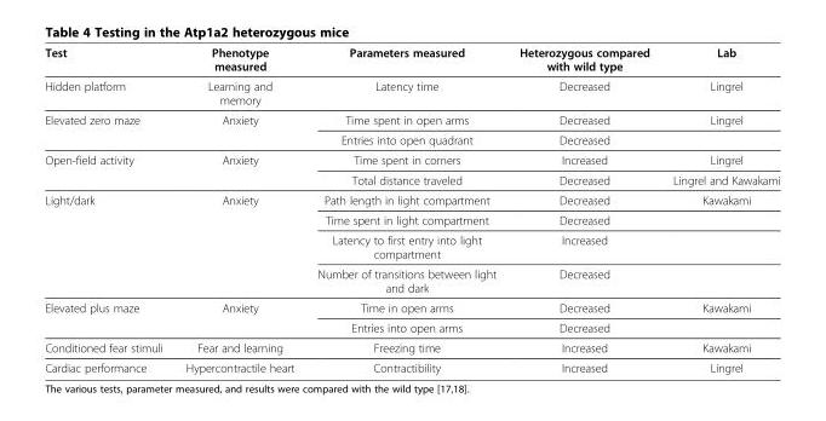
<table><thead><tr><td>Test</td><td>Phenotype measured</td><td>Parameters measured</td><td>Heterozygous compared with wild type</td><td>Lab</td></tr></thead><tbody><tr><td>Hidden platform</td><td>Learning and memory</td><td>Latency time</td><td>Decreased</td><td>Lingrel</td></tr><tr><td rowspan="2">Elevated zero maze</td><td rowspan="2">Anxiety</td><td>Time spent in open arms</td><td>Decreased</td><td>Lingrel</td></tr><tr><td>Entries into open quadrant</td><td>Decreased</td><td></td></tr><tr><td rowspan="2">Open-field activity</td><td rowspan="2">Anxiety</td><td>Time spent in corners</td><td>Increased</td><td>Lingrel</td></tr><tr><td>Total distance traveled</td><td>Decreased</td><td>Lingrel and Kawakami</td></tr><tr><td rowspan="4">Light/dark</td><td rowspan="4">Anxiety</td><td>Path length in light compartment</td><td>Decreased</td><td>Kawakami</td></tr><tr><td>Time spent in light compartment</td><td>Decreased</td><td></td></tr><tr><td>Latency to first entry into light compartment</td><td>Increased</td><td></td></tr><tr><td>Number of transitions between light and dark</td><td>Decreased</td><td></td></tr><tr><td rowspan="2">Elevated plus maze</td><td rowspan="2">Anxiety</td><td>Time in open arms</td><td>Decreased</td><td>Kawakami</td></tr><tr><td>Entries into open arms</td><td>Decreased</td><td></td></tr><tr><td>Conditioned fear stimuli</td><td>Fear and learning</td><td>Freezing time</td><td>Increased</td><td>Kawakami</td></tr><tr><td>Cardiac performance</td><td>Hypercontractile heart</td><td>Contractibility</td><td>Increased</td><td>Lingrel</td></tr></tbody></table>